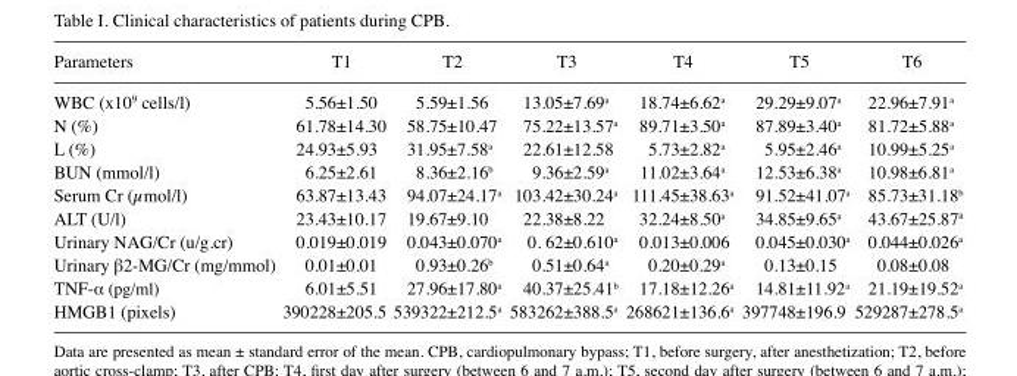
<table><thead><tr><td>Parameters</td><td>T1</td><td>T2</td><td>T3</td><td>T4</td><td>T5</td><td>T6</td></tr></thead><tbody><tr><td>WBC (x109 cells/l)</td><td>5.56±1.50</td><td>5.59±1.56</td><td>13.05±7.69<sup>a</sup></td><td>18.74±6.62<sup>a</sup></td><td>29.29±9.07<sup>a</sup></td><td>22.96±7.91<sup>a</sup></td></tr><tr><td>N (%)</td><td>61.78±14.30</td><td>58.75±10.47</td><td>75.22±13.57<sup>a</sup></td><td>89.71±3.50<sup>a</sup></td><td>87.89±3.40<sup>a</sup></td><td>81.72±5.88<sup>a</sup></td></tr><tr><td>L (%)</td><td>24.93±5.93</td><td>31.95±7.58<sup>a</sup></td><td>22.61±12.58</td><td>5.73±2.82<sup>a</sup></td><td>5.95±2.46<sup>a</sup></td><td>10.99±5.25<sup>a</sup></td></tr><tr><td>BUN (mmol/l)</td><td>6.25±2.61</td><td>8.36±2.16<sup>b</sup></td><td>9.36±2.59<sup>a</sup></td><td>11.02±3.64<sup>a</sup></td><td>12.53±6.38<sup>a</sup></td><td>10.98±6.81<sup>a</sup></td></tr><tr><td>Serum Cr (µmol/l)</td><td>63.87±13.43</td><td>94.07±24.17<sup>a</sup></td><td>103.42±30.24<sup>a</sup></td><td>111.45±38.63<sup>a</sup></td><td>91.52±41.07<sup>a</sup></td><td>85.73±31.18<sup>b</sup></td></tr><tr><td>ALT (U/l)</td><td>23.43±10.17</td><td>19.67±9.10</td><td>22.38±8.22</td><td>32.24±8.50<sup>a</sup></td><td>34.85±9.65<sup>a</sup></td><td>43.67±25.87<sup>a</sup></td></tr><tr><td>Urinary NAG/Cr (u/g.cr)</td><td>0.019±0.019</td><td>0.043±0.070<sup>a</sup></td><td>0. 62±0.610<sup>a</sup></td><td>0.013±0.006</td><td>0.045±0.030<sup>a</sup></td><td>0.044±0.026<sup>a</sup></td></tr><tr><td>Urinary β2-MG/Cr (mg/mmol)</td><td>0.01±0.01</td><td>0.93±0.26<sup>b</sup></td><td>0.51±0.64<sup>a</sup></td><td>0.20±0.29<sup>a</sup></td><td>0.13±0.15</td><td>0.08±0.08</td></tr><tr><td>TNF-α (pg/ml)</td><td>6.01±5.51</td><td>27.96±17.80<sup>a</sup></td><td>40.37±25.41<sup>b</sup></td><td>17.18±12.26<sup>a</sup></td><td>14.81±11.92<sup>a</sup></td><td>21.19±19.52<sup>a</sup></td></tr><tr><td>HMGB1 (pixels)</td><td>390228±205.5</td><td>539322±212.5<sup>a</sup></td><td>583262±388.5<sup>a</sup></td><td>268621±136.6<sup>a</sup></td><td>397748±196.9</td><td>529287±278.5<sup>a</sup></td></tr></tbody></table>